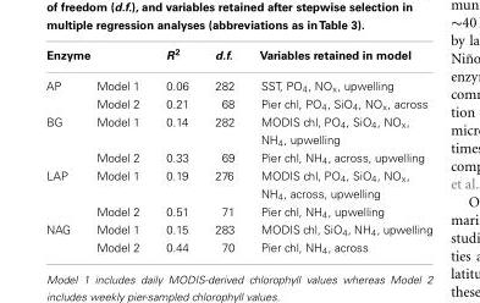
<table><thead><tr><td colspan="2">Enzyme</td><td rowspan="2">R<sup>2</sup> 0.06</td><td rowspan="2">d.f. 282</td><td rowspan="2">Variables retained in model SST, PO<sub>4</sub>, NO<sub>x</sub>, upwelling</td></tr><tr><td>AP</td><td>Model 1</td></tr></thead><tbody><tr><td></td><td>Model 2</td><td>0.21</td><td>68</td><td>Pier chl, PO<sub>4</sub>, SiO<sub>4</sub>, NO<sub>x</sub>, across</td></tr><tr><td rowspan="2">BG</td><td>Model 1</td><td>0.14</td><td>282</td><td>MODIS chl, PO<sub>4</sub>, SiO<sub>4</sub>, NO<sub>x</sub>, NH<sub>4</sub>, upwelling</td></tr><tr><td>Model 2</td><td>0.33</td><td>69</td><td>Pier chl, NH<sub>4</sub>, across, upwelling</td></tr><tr><td rowspan="2">LAP</td><td>Model 1</td><td>0.19</td><td>276</td><td>MODIS chl, PO<sub>4</sub>, SiO<sub>4</sub>, NO<sub>x</sub>, NH<sub>4</sub>, across, upwelling</td></tr><tr><td>Model 2</td><td>0.51</td><td>71</td><td>Pier chl, NH<sub>4</sub>, upwelling</td></tr><tr><td rowspan="2">NAG</td><td>Model 1</td><td>0.15</td><td>283</td><td>MODIS chl, SiO<sub>4</sub>, NH<sub>4</sub>, upwelling</td></tr><tr><td>Model 2</td><td>0.44</td><td>70</td><td>Pier chl, NH<sub>4</sub>, across</td></tr></tbody></table>